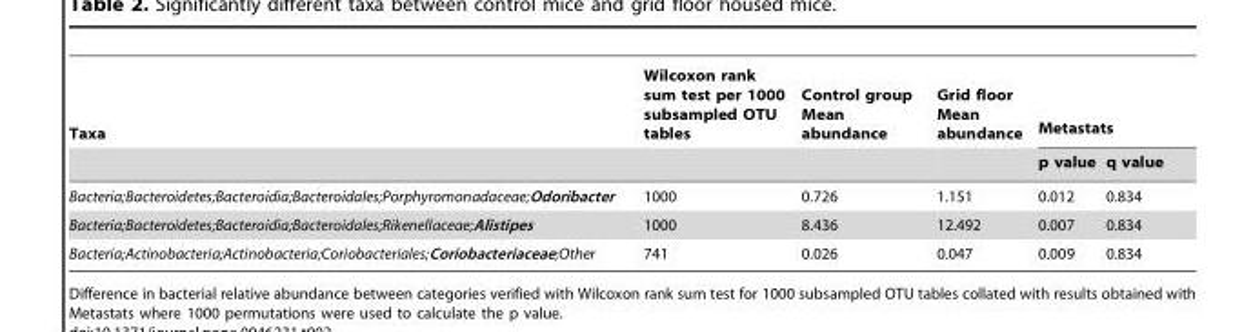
<table><thead><tr><td rowspan="2">Taxa</td><td rowspan="2">Wilcoxon rank sum test per 1000 subsampled OTU tables</td><td rowspan="2">Control group Mean abundance</td><td rowspan="2">Grid floor Mean abundance</td><td colspan="2">Metastats</td></tr><tr><td>p value</td><td>q value</td></tr></thead><tbody><tr><td>Bacteria;Bacteroidetes;Bacteroidia;Bacteroidales;Porphyromonadaceae;Odoribacter</td><td>1000</td><td>0.726</td><td>1.151</td><td>0.012</td><td>0.834</td></tr><tr><td>Bacteria;Bacteroidetes;Bacteroidia;Bacteroidales;Rikenellaceae;Alistipes</td><td>1000</td><td>8.436</td><td>12.492</td><td>0.007</td><td>0.834</td></tr><tr><td>Bacteria;Actinobacteria;Actinobacteria;Coriobacteriales;Coriobacteriaceae;Other</td><td>741</td><td>0.026</td><td>0.047</td><td>0.009</td><td>0.834</td></tr></tbody></table>